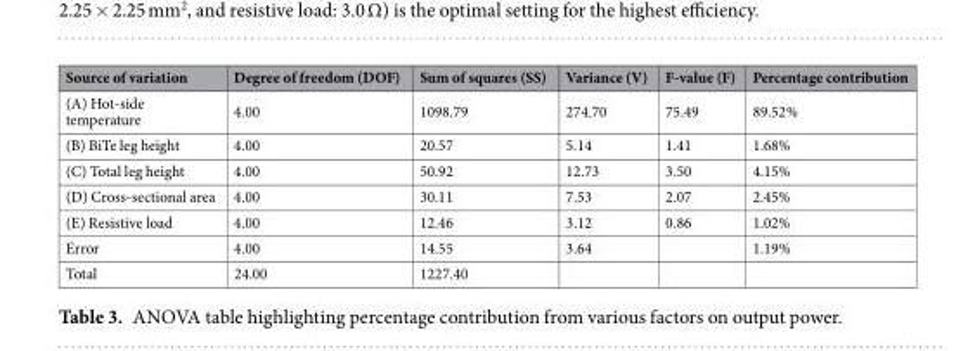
<table><thead><tr><td>Source of variation</td><td>Degree of freedom (DOF)</td><td>Sum of squares (SS)</td><td>Variance (V)</td><td>F-value (F)</td><td>Percentage contribution</td></tr></thead><tbody><tr><td>(A) Hot-side temperature</td><td>4.00</td><td>1098.79</td><td>274.70</td><td>75.49</td><td>89.52%</td></tr><tr><td>(B) BiTe leg height</td><td>4.00</td><td>20.57</td><td>5.14</td><td>1.41</td><td>1.68%</td></tr><tr><td>(C) Total leg height</td><td>4.00</td><td>50.92</td><td>12.73</td><td>3.50</td><td>4.15%</td></tr><tr><td>(D) Cross-sectional area</td><td>4.00</td><td>30.11</td><td>7.53</td><td>2.07</td><td>2.45%</td></tr><tr><td>(E) Resistive load</td><td>4.00</td><td>12.46</td><td>3.12</td><td>0.86</td><td>1.02%</td></tr><tr><td>Error</td><td>4.00</td><td>14.55</td><td>3.64</td><td></td><td>1.19%</td></tr><tr><td>Total</td><td>24.00</td><td>1227.40</td><td></td><td></td><td></td></tr></tbody></table>